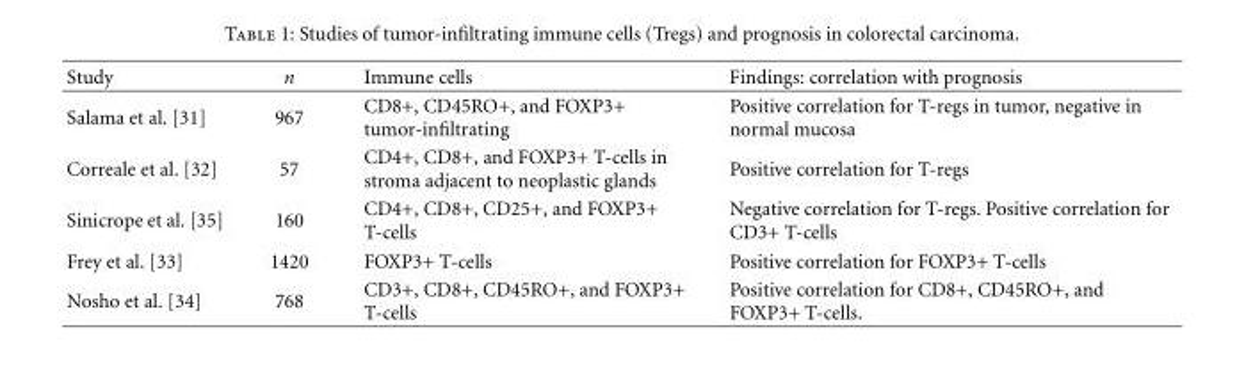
<table><thead><tr><td>Study</td><td>n</td><td>Immune cells</td><td>Findings: correlation with prognosis</td></tr></thead><tbody><tr><td>Salama et al. [31]</td><td>967</td><td>CD8+, CD45RO+, and FOXP3+ tumor-infiltrating</td><td>Positive correlation for T-regs in tumor, negative in normal mucosa</td></tr><tr><td>Correale et al. [32]</td><td>57</td><td>CD4+, CD8+, and FOXP3+ T-cells in stroma adjacent to neoplastic glands</td><td>Positive correlation for T-regs</td></tr><tr><td>Sinicrope et al. [35]</td><td>160</td><td>CD4+, CD8+, CD25+, and FOXP3+ T-cells</td><td>Negative correlation for T-regs. Positive correlation for CD3+ T-cells</td></tr><tr><td>Frey et al. [33]</td><td>1420</td><td>FOXP3+ T-cells</td><td>Positive correlation for FOXP3+ T-cells</td></tr><tr><td>Nosho et al. [34]</td><td>768</td><td>CD3+, CD8+, CD45RO+, and FOXP3+ T-cells</td><td>Positive correlation for CD8+, CD45RO+, and FOXP3+ T-cells.</td></tr></tbody></table>